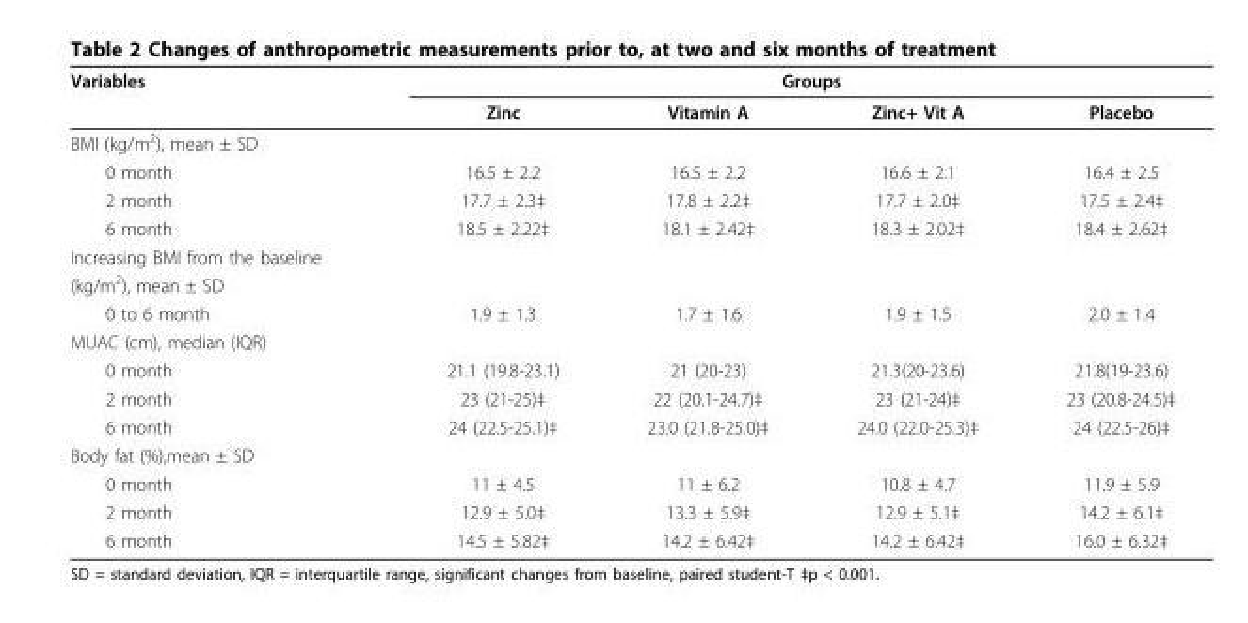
<table><thead><tr><td rowspan="2">Variables</td><td colspan="4">Groups</td></tr><tr><td>Zinc</td><td>Vitamin A</td><td>Zinc+ Vit A</td><td>Placebo</td></tr></thead><tbody><tr><td colspan="5">BMI (kg/m<sup>2</sup>), mean ± SD</td></tr><tr><td>0 month</td><td>16.5 ± 2.2</td><td>16.5 ± 2.2</td><td>16.6 ± 2.1</td><td>16.4 ± 2.5</td></tr><tr><td>2 month</td><td>17.7 ± 2.3‡</td><td>17.8 ± 2.2‡</td><td>17.7 ± 2.0‡</td><td>17.5 ± 2.4‡</td></tr><tr><td>6 month</td><td>18.5 ± 2.22‡</td><td>18.1 ± 2.42‡</td><td>18.3 ± 2.02‡</td><td>18.4 ± 2.62‡</td></tr><tr><td colspan="5">Increasing BMI from the baseline</td></tr><tr><td colspan="5">(kg/m<sup>2</sup>), mean ± SD</td></tr><tr><td>0 to 6 month</td><td>1.9 ± 1.3</td><td>1.7 ± 1.6</td><td>1.9 ± 1.5</td><td>2.0 ± 1.4</td></tr><tr><td colspan="5">MUAC (cm), median (IQR)</td></tr><tr><td>0 month</td><td>21.1 (19.8-23.1)</td><td>21 (20-23)</td><td>21.3(20-23.6)</td><td>21.8(19-23.6)</td></tr><tr><td>2 month</td><td>23 (21-25)‡</td><td>22 (20.1-24.7)‡</td><td>23 (21-24)‡</td><td>23 (20.8-24.5)‡</td></tr><tr><td>6 month</td><td>24 (22.5-25.1)‡</td><td>23.0 (21.8-25.0)‡</td><td>24.0 (22.0-25.3)‡</td><td>24 (22.5-26)‡</td></tr><tr><td colspan="5">Body fat (%),mean ± SD</td></tr><tr><td>0 month</td><td>11 ± 4.5</td><td>11 ± 6.2</td><td>10.8 ± 4.7</td><td>11.9 ± 5.9</td></tr><tr><td>2 month</td><td>12.9 ± 5.0‡</td><td>13.3 ± 5.9‡</td><td>12.9 ± 5.1‡</td><td>14.2 ± 6.1‡</td></tr><tr><td>6 month</td><td>14.5 ± 5.82‡</td><td>14.2 ± 6.42‡</td><td>14.2 ± 6.42‡</td><td>16.0 ± 6.32‡</td></tr></tbody></table>